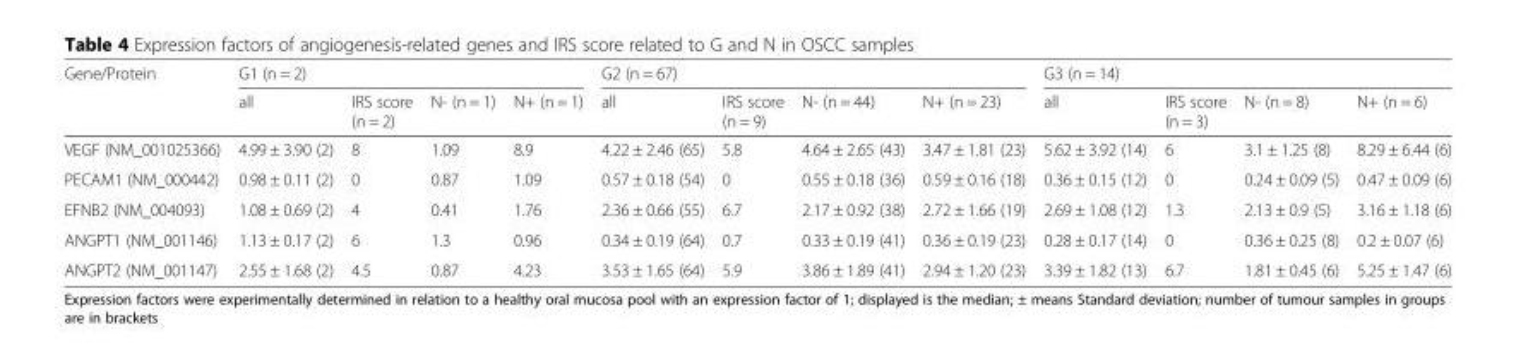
<table><thead><tr><td rowspan="2">Gene/Protein</td><td colspan="4">G1 (n = 2)</td><td colspan="4">G2 (n = 67)</td><td colspan="4">G3 (n = 14)</td></tr><tr><td>all</td><td>IRS score (n = 2)</td><td>N- (n = 1)</td><td>N+ (n = 1)</td><td>all</td><td>IRS score (n = 9)</td><td>N- (n = 44)</td><td>N+ (n = 23)</td><td>all</td><td>IRS score (n = 3)</td><td>N- (n = 8)</td><td>N+ (n = 6)</td></tr></thead><tbody><tr><td>VEGF (NM_001025366)</td><td>4.99 ± 3.90 (2)</td><td>8</td><td>1.09</td><td>8.9</td><td>4.22 ± 2.46 (65)</td><td>5.8</td><td>4.64 ± 2.65 (43)</td><td>3.47 ± 1.81 (23)</td><td>5.62 ± 3.92 (14)</td><td>6</td><td>3.1 ± 1.25 (8)</td><td>8.29 ± 6.44 (6)</td></tr><tr><td>PECAM1 (NM_000442)</td><td>0.98 ± 0.11 (2)</td><td>0</td><td>0.87</td><td>1.09</td><td>0.57 ± 0.18 (54)</td><td>0</td><td>0.55 ± 0.18 (36)</td><td>0.59 ± 0.16 (18)</td><td>0.36 ± 0.15 (12)</td><td>0</td><td>0.24 ± 0.09 (5)</td><td>0.47 ± 0.09 (6)</td></tr><tr><td>EFNB2 (NM_004093)</td><td>1.08 ± 0.69 (2)</td><td>4</td><td>0.41</td><td>1.76</td><td>2.36 ± 0.66 (55)</td><td>6.7</td><td>2.17 ± 0.92 (38)</td><td>2.72 ± 1.66 (19)</td><td>2.69 ± 1.08 (12)</td><td>1.3</td><td>2.13 ± 0.9 (5)</td><td>3.16 ± 1.18 (6)</td></tr><tr><td>ANGPT1 (NM_001146)</td><td>1.13 ± 0.17 (2)</td><td>6</td><td>1.3</td><td>0.96</td><td>0.34 ± 0.19 (64)</td><td>0.7</td><td>0.33 ± 0.19 (41)</td><td>0.36 ± 0.19 (23)</td><td>0.28 ± 0.17 (14)</td><td>0</td><td>0.36 ± 0.25 (8)</td><td>0.2 ± 0.07 (6)</td></tr><tr><td>ANGPT2 (NM_001147)</td><td>2.55 ± 1.68 (2)</td><td>4.5</td><td>0.87</td><td>4.23</td><td>3.53 ± 1.65 (64)</td><td>5.9</td><td>3.86 ± 1.89 (41)</td><td>2.94 ± 1.20 (23)</td><td>3.39 ± 1.82 (13)</td><td>6.7</td><td>1.81 ± 0.45 (6)</td><td>5.25 ± 1.47 (6)</td></tr></tbody></table>